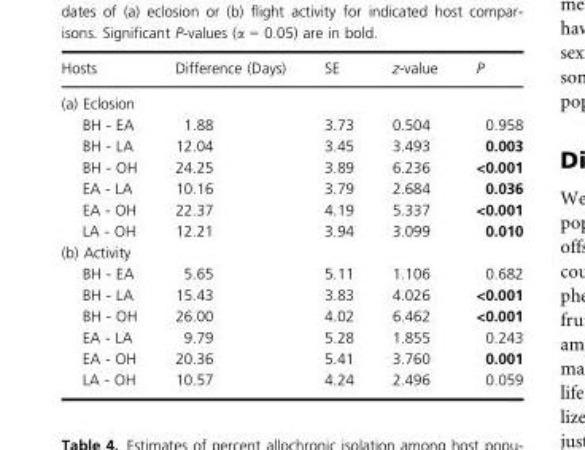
<table><thead><tr><td>Hosts</td><td>Difference (Days)</td><td>SE</td><td>z-value</td><td>P</td></tr></thead><tbody><tr><td colspan="5">(a) Eclosion</td></tr><tr><td>BH - EA</td><td>1.88</td><td>3.73</td><td>0.504</td><td>0.958</td></tr><tr><td>BH - LA</td><td>12.04</td><td>3.45</td><td>3.493</td><td>0.003</td></tr><tr><td>BH - OH</td><td>24.25</td><td>3.89</td><td>6.236</td><td>&lt;0.001</td></tr><tr><td>EA - LA</td><td>10.16</td><td>3.79</td><td>2.684</td><td>0.036</td></tr><tr><td>EA - OH</td><td>22.37</td><td>4.19</td><td>5.337</td><td>&lt;0.001</td></tr><tr><td>LA - OH</td><td>12.21</td><td>3.94</td><td>3.099</td><td>0.010</td></tr><tr><td colspan="5">(b) Activity</td></tr><tr><td>BH - EA</td><td>5.65</td><td>5.11</td><td>1.106</td><td>0.682</td></tr><tr><td>BH - LA</td><td>15.43</td><td>3.83</td><td>4.026</td><td>&lt;0.001</td></tr><tr><td>BH - OH</td><td>26.00</td><td>4.02</td><td>6.462</td><td>&lt;0.001</td></tr><tr><td>EA - LA</td><td>9.79</td><td>5.28</td><td>1.855</td><td>0.243</td></tr><tr><td>EA - OH</td><td>20.36</td><td>5.41</td><td>3.760</td><td>0.001</td></tr><tr><td>LA - OH</td><td>10.57</td><td>4.24</td><td>2.496</td><td>0.059</td></tr></tbody></table>